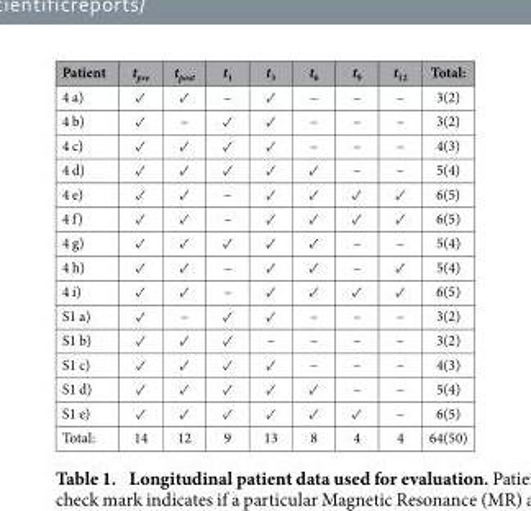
<table><thead><tr><td>Patient</td><td>t<sub>pre</sub></td><td>t<sub>post</sub></td><td>t<sub>1</sub></td><td>t<sub>3</sub></td><td>t<sub>6</sub></td><td>t<sub>9</sub></td><td>t<sub>12</sub></td><td>Total:</td></tr></thead><tbody><tr><td>4 a)</td><td>✓</td><td>✓</td><td>–</td><td>✓</td><td>–</td><td>–</td><td>–</td><td>3(2)</td></tr><tr><td>4 b)</td><td>✓</td><td>–</td><td>✓</td><td>✓</td><td>–</td><td>–</td><td>–</td><td>3(2)</td></tr><tr><td>4 c)</td><td>✓</td><td>✓</td><td>✓</td><td>✓</td><td>–</td><td>–</td><td>–</td><td>4(3)</td></tr><tr><td>4 d)</td><td>✓</td><td>✓</td><td>✓</td><td>✓</td><td>✓</td><td>–</td><td>–</td><td>5(4)</td></tr><tr><td>4 e)</td><td>✓</td><td>✓</td><td>–</td><td>✓</td><td>✓</td><td>✓</td><td>✓</td><td>6(5)</td></tr><tr><td>4 f)</td><td>✓</td><td>✓</td><td>–</td><td>✓</td><td>✓</td><td>✓</td><td>✓</td><td>6(5)</td></tr><tr><td>4 g)</td><td>✓</td><td>✓</td><td>✓</td><td>✓</td><td>✓</td><td>–</td><td>–</td><td>5(4)</td></tr><tr><td>4 h)</td><td>✓</td><td>✓</td><td>–</td><td>✓</td><td>✓</td><td>–</td><td>✓</td><td>5(4)</td></tr><tr><td>4 i)</td><td>✓</td><td>✓</td><td>–</td><td>✓</td><td>✓</td><td>✓</td><td>✓</td><td>6(5)</td></tr><tr><td>S1 a)</td><td>✓</td><td>–</td><td>✓</td><td>✓</td><td>–</td><td>–</td><td>–</td><td>3(2)</td></tr><tr><td>S1 b)</td><td>✓</td><td>✓</td><td>✓</td><td>–</td><td>–</td><td>–</td><td>–</td><td>3(2)</td></tr><tr><td>S1 c)</td><td>✓</td><td>✓</td><td>✓</td><td>✓</td><td>–</td><td>–</td><td>–</td><td>4(3)</td></tr><tr><td>S1 d)</td><td>✓</td><td>✓</td><td>✓</td><td>✓</td><td>✓</td><td>–</td><td>–</td><td>5(4)</td></tr><tr><td>S1 e)</td><td>✓</td><td>✓</td><td>✓</td><td>✓</td><td>✓</td><td>✓</td><td>–</td><td>6(5)</td></tr><tr><td>Total:</td><td>14</td><td>12</td><td>9</td><td>13</td><td>8</td><td>4</td><td>4</td><td>64(50)</td></tr></tbody></table>